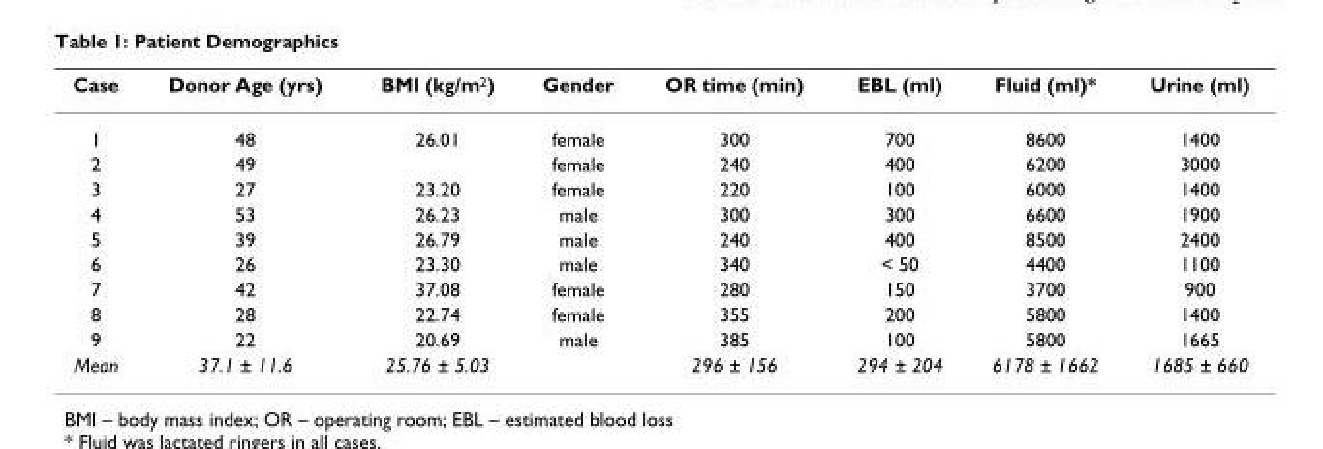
<table><thead><tr><td>Case</td><td>Donor Age (yrs)</td><td>BMI (kg/m<sup>2</sup>)</td><td>Gender</td><td>OR time (min)</td><td>EBL (ml)</td><td>Fluid (ml)*</td><td>Urine (ml)</td></tr></thead><tbody><tr><td>1</td><td>48</td><td>26.01</td><td>female</td><td>300</td><td>700</td><td>8600</td><td>1400</td></tr><tr><td>2</td><td>49</td><td></td><td>female</td><td>240</td><td>400</td><td>6200</td><td>3000</td></tr><tr><td>3</td><td>27</td><td>23.20</td><td>female</td><td>220</td><td>100</td><td>6000</td><td>1400</td></tr><tr><td>4</td><td>53</td><td>26.23</td><td>male</td><td>300</td><td>300</td><td>6600</td><td>1900</td></tr><tr><td>5</td><td>39</td><td>26.79</td><td>male</td><td>240</td><td>400</td><td>8500</td><td>2400</td></tr><tr><td>6</td><td>26</td><td>23.30</td><td>male</td><td>340</td><td>&lt; 50</td><td>4400</td><td>1100</td></tr><tr><td>7</td><td>42</td><td>37.08</td><td>female</td><td>280</td><td>150</td><td>3700</td><td>900</td></tr><tr><td>8</td><td>28</td><td>22.74</td><td>female</td><td>355</td><td>200</td><td>5800</td><td>1400</td></tr><tr><td>9</td><td>22</td><td>20.69</td><td>male</td><td>385</td><td>100</td><td>5800</td><td>1665</td></tr><tr><td>Mean</td><td>37.1 ± 11.6</td><td>25.76 ± 5.03</td><td></td><td>296 ± 156</td><td>294 ± 204</td><td>6178 ± 1662</td><td>1685 ± 660</td></tr></tbody></table>